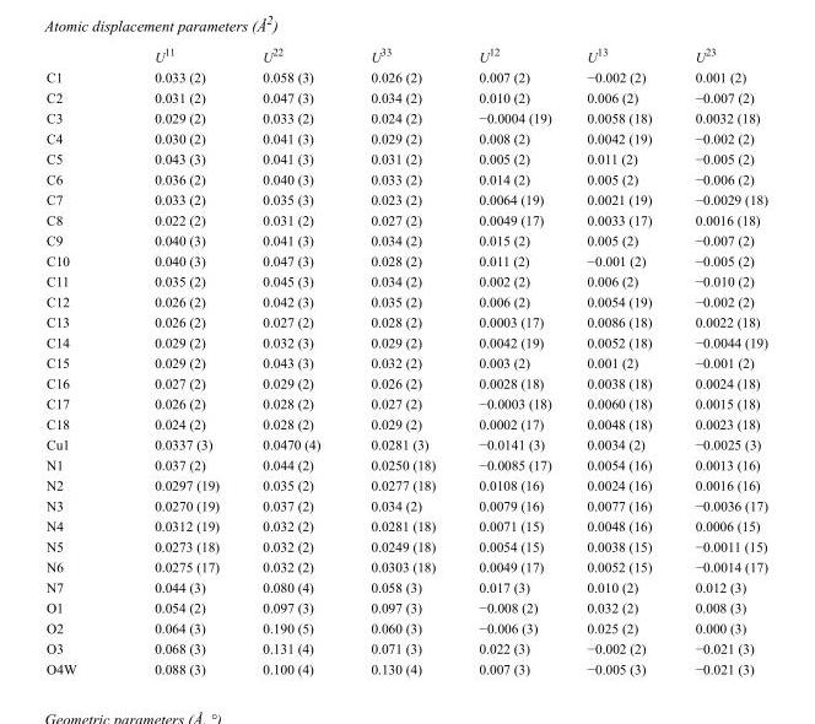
<table><thead><tr><td></td><td>U<sup>11</sup></td><td>U<sup>22</sup></td><td>U<sup>33</sup></td><td>U<sup>12</sup></td><td>U<sup>13</sup></td><td>U<sup>23</sup></td></tr></thead><tbody><tr><td>C1</td><td>0.033 (2)</td><td>0.058 (3)</td><td>0.026 (2)</td><td>0.007 (2)</td><td>−0.002 (2)</td><td>0.001 (2)</td></tr><tr><td>C2</td><td>0.031 (2)</td><td>0.047 (3)</td><td>0.034 (2)</td><td>0.010 (2)</td><td>0.006 (2)</td><td>−0.007 (2)</td></tr><tr><td>C3</td><td>0.029 (2)</td><td>0.033 (2)</td><td>0.024 (2)</td><td>−0.0004 (19)</td><td>0.0058 (18)</td><td>0.0032 (18)</td></tr><tr><td>C4</td><td>0.030 (2)</td><td>0.041 (3)</td><td>0.029 (2)</td><td>0.008 (2)</td><td>0.0042 (19)</td><td>−0.002 (2)</td></tr><tr><td>C5</td><td>0.043 (3)</td><td>0.041 (3)</td><td>0.031 (2)</td><td>0.005 (2)</td><td>0.011 (2)</td><td>−0.005 (2)</td></tr><tr><td>C6</td><td>0.036 (2)</td><td>0.040 (3)</td><td>0.033 (2)</td><td>0.014 (2)</td><td>0.005 (2)</td><td>−0.006 (2)</td></tr><tr><td>C7</td><td>0.033 (2)</td><td>0.035 (3)</td><td>0.023 (2)</td><td>0.0064 (19)</td><td>0.0021 (19)</td><td>−0.0029 (18)</td></tr><tr><td>C8</td><td>0.022 (2)</td><td>0.031 (2)</td><td>0.027 (2)</td><td>0.0049 (17)</td><td>0.0033 (17)</td><td>0.0016 (18)</td></tr><tr><td>C9</td><td>0.040 (3)</td><td>0.041 (3)</td><td>0.034 (2)</td><td>0.015 (2)</td><td>0.005 (2)</td><td>−0.007 (2)</td></tr><tr><td>C10</td><td>0.040 (3)</td><td>0.047 (3)</td><td>0.028 (2)</td><td>0.011 (2)</td><td>−0.001 (2)</td><td>−0.005 (2)</td></tr><tr><td>C11</td><td>0.035 (2)</td><td>0.045 (3)</td><td>0.034 (2)</td><td>0.002 (2)</td><td>0.006 (2)</td><td>−0.010 (2)</td></tr><tr><td>C12</td><td>0.026 (2)</td><td>0.042 (3)</td><td>0.035 (2)</td><td>0.006 (2)</td><td>0.0054 (19)</td><td>−0.002 (2)</td></tr><tr><td>C13</td><td>0.026 (2)</td><td>0.027 (2)</td><td>0.028 (2)</td><td>0.0003 (17)</td><td>0.0086 (18)</td><td>0.0022 (18)</td></tr><tr><td>C14</td><td>0.029 (2)</td><td>0.032 (3)</td><td>0.029 (2)</td><td>0.0042 (19)</td><td>0.0052 (18)</td><td>−0.0044 (19)</td></tr><tr><td>C15</td><td>0.029 (2)</td><td>0.043 (3)</td><td>0.032 (2)</td><td>0.003 (2)</td><td>0.001 (2)</td><td>−0.001 (2)</td></tr><tr><td>C16</td><td>0.027 (2)</td><td>0.029 (2)</td><td>0.026 (2)</td><td>0.0028 (18)</td><td>0.0038 (18)</td><td>0.0024 (18)</td></tr><tr><td>C17</td><td>0.026 (2)</td><td>0.028 (2)</td><td>0.027 (2)</td><td>−0.0003 (18)</td><td>0.0060 (18)</td><td>0.0015 (18)</td></tr><tr><td>C18</td><td>0.024 (2)</td><td>0.028 (2)</td><td>0.029 (2)</td><td>0.0002 (17)</td><td>0.0048 (18)</td><td>0.0023 (18)</td></tr><tr><td>Cu1</td><td>0.0337 (3)</td><td>0.0470 (4)</td><td>0.0281 (3)</td><td>−0.0141 (3)</td><td>0.0034 (2)</td><td>−0.0025 (3)</td></tr><tr><td>N1</td><td>0.037 (2)</td><td>0.044 (2)</td><td>0.0250 (18)</td><td>−0.0085 (17)</td><td>0.0054 (16)</td><td>0.0013 (16)</td></tr><tr><td>N2</td><td>0.0297 (19)</td><td>0.035 (2)</td><td>0.0277 (18)</td><td>0.0108 (16)</td><td>0.0024 (16)</td><td>0.0016 (16)</td></tr><tr><td>N3</td><td>0.0270 (19)</td><td>0.037 (2)</td><td>0.034 (2)</td><td>0.0079 (16)</td><td>0.0077 (16)</td><td>−0.0036 (17)</td></tr><tr><td>N4</td><td>0.0312 (19)</td><td>0.032 (2)</td><td>0.0281 (18)</td><td>0.0071 (15)</td><td>0.0048 (16)</td><td>0.0006 (15)</td></tr><tr><td>N5</td><td>0.0273 (18)</td><td>0.032 (2)</td><td>0.0249 (18)</td><td>0.0054 (15)</td><td>0.0038 (15)</td><td>−0.0011 (15)</td></tr><tr><td>N6</td><td>0.0275 (17)</td><td>0.032 (2)</td><td>0.0303 (18)</td><td>0.0049 (17)</td><td>0.0052 (15)</td><td>−0.0014 (17)</td></tr><tr><td>N7</td><td>0.044 (3)</td><td>0.080 (4)</td><td>0.058 (3)</td><td>0.017 (3)</td><td>0.010 (2)</td><td>0.012 (3)</td></tr><tr><td>O1</td><td>0.054 (2)</td><td>0.097 (3)</td><td>0.097 (3)</td><td>−0.008 (2)</td><td>0.032 (2)</td><td>0.008 (3)</td></tr><tr><td>O2</td><td>0.064 (3)</td><td>0.190 (5)</td><td>0.060 (3)</td><td>−0.006 (3)</td><td>0.025 (2)</td><td>0.000 (3)</td></tr><tr><td>O3</td><td>0.068 (3)</td><td>0.131 (4)</td><td>0.071 (3)</td><td>0.022 (3)</td><td>−0.002 (2)</td><td>−0.021 (3)</td></tr><tr><td>O4W</td><td>0.088 (3)</td><td>0.100 (4)</td><td>0.130 (4)</td><td>0.007 (3)</td><td>−0.005 (3)</td><td>−0.021 (3)</td></tr></tbody></table>